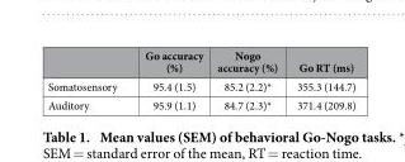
<table><thead><tr><td></td><td>Go accuracy (%)</td><td>Nogo accuracy (%)</td><td>Go RT (ms)</td></tr></thead><tbody><tr><td>Somatosensory</td><td>95.4 (1.5)</td><td>85.2 (2.2)*</td><td>355.3 (144.7)</td></tr><tr><td>Auditory</td><td>95.9 (1.1)</td><td>84.7 (2.3)*</td><td>371.4 (209.8)</td></tr></tbody></table>